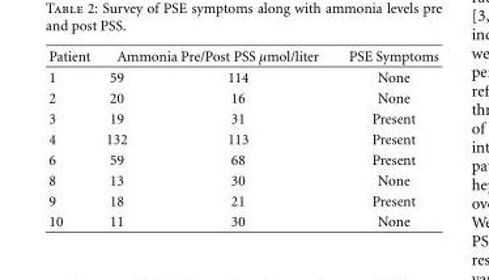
<table><thead><tr><td rowspan="2">Patient 1</td><td colspan="2">Ammonia Pre/Post PSS µmol/liter</td><td rowspan="2">PSE Symptoms None</td></tr><tr><td>59</td><td>114</td></tr></thead><tbody><tr><td>2</td><td>20</td><td>16</td><td>None</td></tr><tr><td>3</td><td>19</td><td>31</td><td>Present</td></tr><tr><td>4</td><td>132</td><td>113</td><td>Present</td></tr><tr><td>6</td><td>59</td><td>68</td><td>Present</td></tr><tr><td>8</td><td>13</td><td>30</td><td>None</td></tr><tr><td>9</td><td>18</td><td>21</td><td>Present</td></tr><tr><td>10</td><td>11</td><td>30</td><td>None</td></tr></tbody></table>